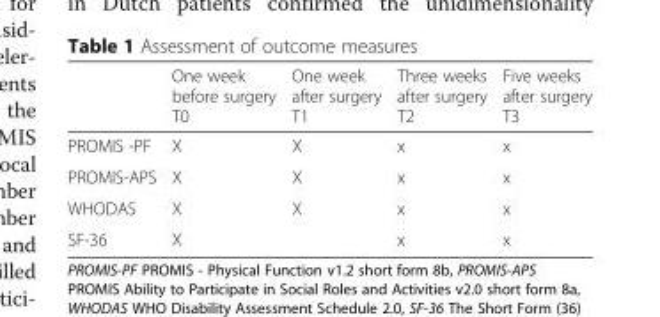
<table><thead><tr><td></td><td>One week before surgery T0</td><td>One week after surgery T1</td><td>Three weeks after surgery T2</td><td>Five weeks after surgery T3</td></tr></thead><tbody><tr><td>PROMIS -PF</td><td>X</td><td>X</td><td>x</td><td>x</td></tr><tr><td>PROMIS-APS</td><td>X</td><td>X</td><td>x</td><td>x</td></tr><tr><td>WHODAS</td><td>X</td><td>X</td><td>x</td><td>x</td></tr><tr><td>SF-36</td><td>X</td><td></td><td>x</td><td>x</td></tr></tbody></table>